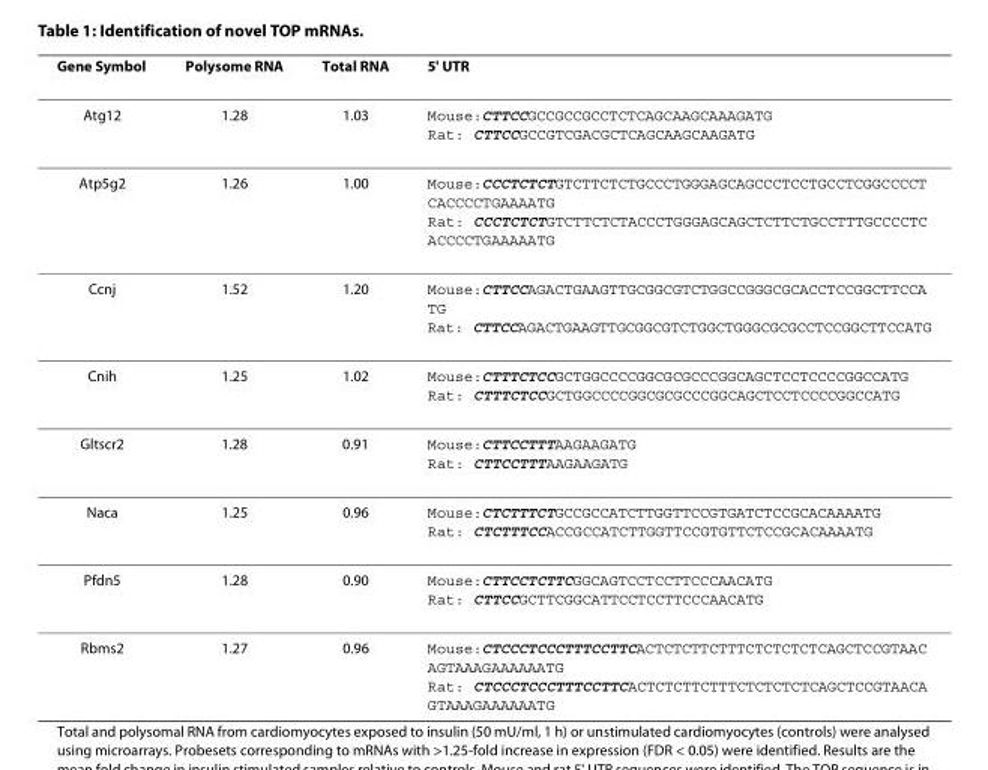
<table><thead><tr><td>Gene Symbol</td><td>Polysome RNA</td><td>Total RNA</td><td>5&#x27; UTR</td></tr></thead><tbody><tr><td>Atg12</td><td>1.28</td><td>1.03</td><td>Mouse:CTTCCGCCGCCGCCTCTCAGCAAGCAAAGATG Rat: CTTCCGCCGTCGACGCTCAGCAAGCAAGATG</td></tr><tr><td>Atp5g2</td><td>1.26</td><td>1.00</td><td>Mouse:CCCTCTCTGTCTTCTCTGCCCTGGGAGCAGCCCTCCTGCCTCGGCCCCT CACCCCTGAAAATG Rat: CCCTCTCTGTCTTCTCTACCCTGGGAGCAGCTCTTCTGCCTTTGCCCCTC ACCCCTGAAAAATG</td></tr><tr><td>Ccnj</td><td>1.52</td><td>1.20</td><td>Mouse:CTTCCAGACTGAAGTTGCGGCGTCTGGCCGGGCGCACCTCCGGCTTCCA TG Rat: CTTCCAGACTGAAGTTGCGGCGTCTGGCTGGGCGCGCCTCCGGCTTCCATG</td></tr><tr><td>Cnih</td><td>1.25</td><td>1.02</td><td>Mouse:CTTTCTCCGCTGGCCCCGGCGCGCCCGGCAGCTCCTCCCCGGCCATG Rat: CTTTCTCCGCTGGCCCCGGCGCGCCCGGCAGCTCCTCCCCGGCCATG</td></tr><tr><td>Gltscr2</td><td>1.28</td><td>0.91</td><td>Mouse:CTTCCTTTAAGAAGATG Rat: CTTCCTTTAAGAAGATG</td></tr><tr><td>Naca</td><td>1.25</td><td>0.96</td><td>Mouse:CTCTTTCTGCCGCCATCTTGGTTCCGTGATCTCCGCACAAAATG Rat: CTCTTTCCACCGCCATCTTGGTTCCGTGTTCTCCGCACAAAATG</td></tr><tr><td>Pfdn5</td><td>1.28</td><td>0.90</td><td>Mouse:CTTCCTCTTCGGCAGTCCTCCTTCCCAACATG Rat: CTTCCGCTTCGGCATTCCTCCTTCCCAACATG</td></tr><tr><td>Rbms2</td><td>1.27</td><td>0.96</td><td>Mouse:CTCCCTCCCTTTCCTTCACTCTCTTCTTTCTCTCTCTCAGCTCCGTAAC AGTAAAGAAAAAATG Rat: CTCCCTCCCTTTCCTTCACTCTCTTCTTTCTCTCTCTCAGCTCCGTAACA GTAAAGAAAAAATG</td></tr></tbody></table>